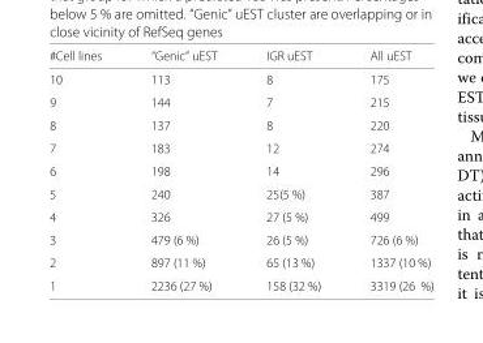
<table><thead><tr><td>#Cell lines</td><td>“Genic” uEST</td><td>IGR uEST</td><td>All uEST</td></tr></thead><tbody><tr><td>10</td><td>113</td><td>8</td><td>175</td></tr><tr><td>9</td><td>144</td><td>7</td><td>215</td></tr><tr><td>8</td><td>137</td><td>8</td><td>220</td></tr><tr><td>7</td><td>183</td><td>12</td><td>274</td></tr><tr><td>6</td><td>198</td><td>14</td><td>296</td></tr><tr><td>5</td><td>240</td><td>25(5 %)</td><td>387</td></tr><tr><td>4</td><td>326</td><td>27 (5 %)</td><td>499</td></tr><tr><td>3</td><td>479 (6 %)</td><td>26 (5 %)</td><td>726 (6 %)</td></tr><tr><td>2</td><td>897 (11 %)</td><td>65 (13 %)</td><td>1337 (10 %)</td></tr><tr><td>1</td><td>2236 (27 %)</td><td>158 (32 %)</td><td>3319 (26 %)</td></tr></tbody></table>